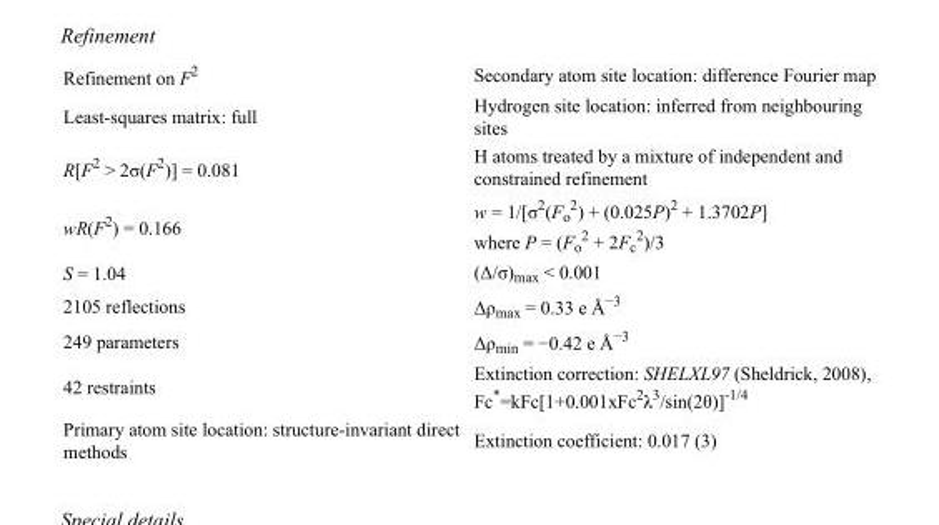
<table><tbody><tr><td>Refinement on F<sup>2</sup></td><td>Secondary atom site location: difference Fourier map</td></tr><tr><td>Least-squares matrix: full</td><td>Hydrogen site location: inferred from neighbouring sites</td></tr><tr><td>R[F<sup>2</sup> &gt; 2σ(F<sup>2</sup>)] = 0.081</td><td>H atoms treated by a mixture of independent and constrained refinement</td></tr><tr><td>wR(F<sup>2</sup>) = 0.166</td><td>w = 1/[σ<sup>2</sup>(F<sub>o</sub> <sup>2</sup>) + (0.025P)<sup>2</sup> + 1.3702P] where P = (F<sub>o</sub> <sup>2</sup> + 2F<sub>c</sub> <sup>2</sup>)/3</td></tr><tr><td>S = 1.04</td><td>(Δ/σ)<sub>max</sub> &lt; 0.001</td></tr><tr><td>2105 reflections</td><td>Δρ<sub>max</sub> = 0.33 e Å<sup>−3</sup></td></tr><tr><td>249 parameters</td><td>Δρ<sub>min</sub> = −0.42 e Å<sup>−3</sup></td></tr><tr><td>42 restraints</td><td>Extinction correction: SHELXL97 (Sheldrick, 2008), Fc*=kFc[1+0.001xFc<sup>2</sup>λ<sup>3</sup>/sin(2θ)]<sup>-1/4</sup></td></tr><tr><td>Primary atom site location: structure-invariant direct methods</td><td>Extinction coefficient: 0.017 (3)</td></tr></tbody></table>